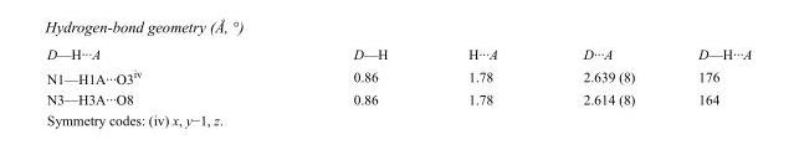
<table><tbody><tr><td>D—H···A</td><td>D—H</td><td>H···A</td><td>D···A</td><td>D—H···A</td></tr><tr><td>N1—H1A···O3<sup>iv</sup></td><td>0.86</td><td>1.78</td><td>2.639 (8)</td><td>176</td></tr><tr><td>N3—H3A···O8</td><td>0.86</td><td>1.78</td><td>2.614 (8)</td><td>164</td></tr></tbody></table>